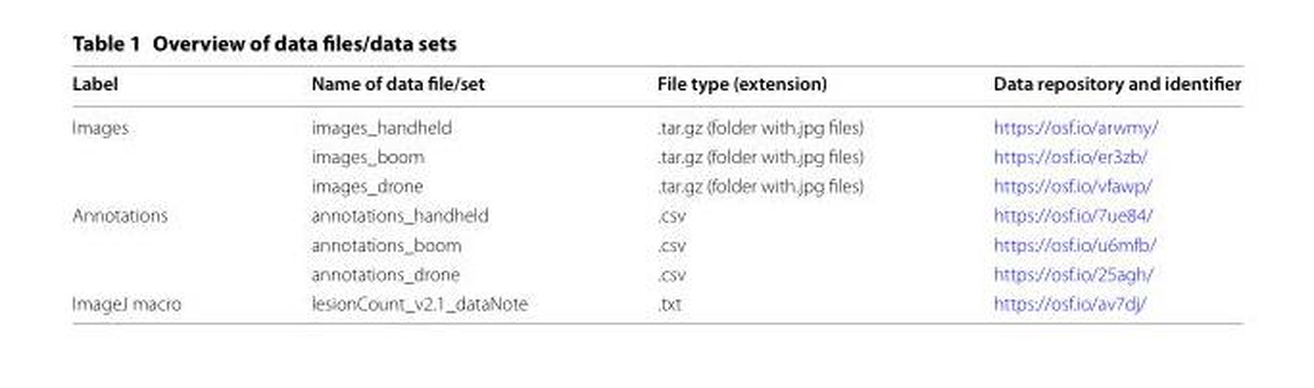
<table><thead><tr><td>Label</td><td>Name of data file/set</td><td>File type (extension)</td><td>Data repository and identifier</td></tr></thead><tbody><tr><td rowspan="3">Images</td><td>images_handheld</td><td>.tar.gz (folder with.jpg files)</td><td>https ://osf.io/arwmy /</td></tr><tr><td>images_boom</td><td>.tar.gz (folder with.jpg files)</td><td>https ://osf.io/er3zb /</td></tr><tr><td>images_drone</td><td>.tar.gz (folder with.jpg files)</td><td>https ://osf.io/vfawp /</td></tr><tr><td rowspan="3">Annotations</td><td>annotations_handheld</td><td>.csv</td><td>https ://osf.io/7ue84 /</td></tr><tr><td>annotations_boom</td><td>.csv</td><td>https ://osf.io/u6mfb /</td></tr><tr><td>annotations_drone</td><td>.csv</td><td>https ://osf.io/25agh /</td></tr><tr><td>ImageJ macro</td><td>lesionCount_v2.1_dataNote</td><td>.txt</td><td>https ://osf.io/av7dj /</td></tr></tbody></table>